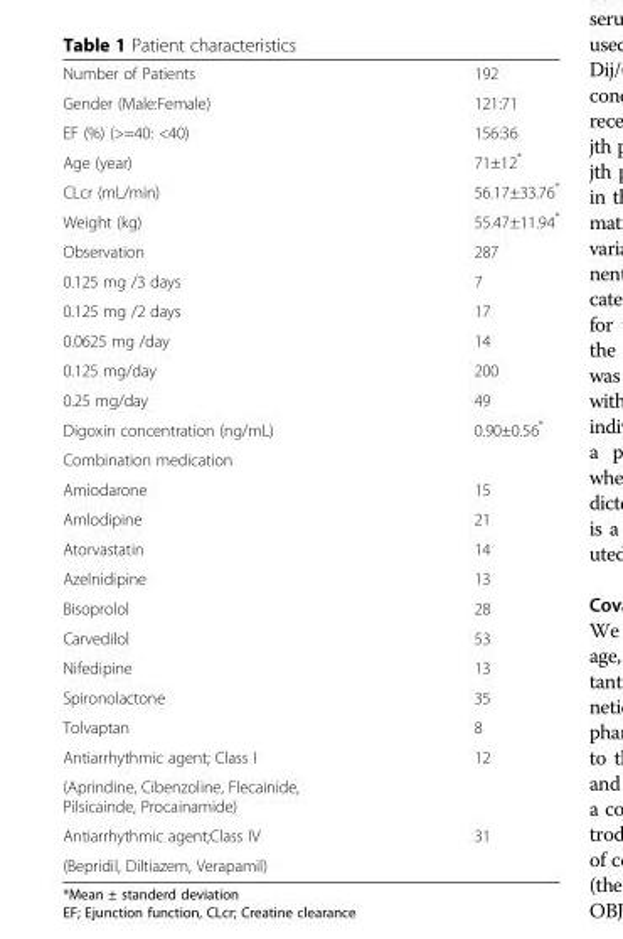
<table><tbody><tr><td>Number of Patients</td><td>192</td></tr><tr><td>Gender (Male:Female)</td><td>121:71</td></tr><tr><td>EF (%) (&gt;=40: &lt;40)</td><td>156:36</td></tr><tr><td>Age (year)</td><td>71±12*</td></tr><tr><td>CLcr (mL/min)</td><td>56.17±33.76*</td></tr><tr><td>Weight (kg)</td><td>55.47±11.94*</td></tr><tr><td>Observation</td><td>287</td></tr><tr><td>0.125 mg /3 days</td><td>7</td></tr><tr><td>0.125 mg /2 days</td><td>17</td></tr><tr><td>0.0625 mg /day</td><td>14</td></tr><tr><td>0.125 mg/day</td><td>200</td></tr><tr><td>0.25 mg/day</td><td>49</td></tr><tr><td>Digoxin concentration (ng/mL)</td><td>0.90±0.56*</td></tr><tr><td colspan="2">Combination medication</td></tr><tr><td>Amiodarone</td><td>15</td></tr><tr><td>Amlodipine</td><td>21</td></tr><tr><td>Atorvastatin</td><td>14</td></tr><tr><td>Azelnidipine</td><td>13</td></tr><tr><td>Bisoprolol</td><td>28</td></tr><tr><td>Carvedilol</td><td>53</td></tr><tr><td>Nifedipine</td><td>13</td></tr><tr><td>Spironolactone</td><td>35</td></tr><tr><td>Tolvaptan</td><td>8</td></tr><tr><td>Antiarrhythmic agent; Class I</td><td>12</td></tr><tr><td colspan="2">(Aprindine, Cibenzoline, Flecainide, Pilsicainde, Procainamide)</td></tr><tr><td>Antiarrhythmic agent;Class IV</td><td>31</td></tr><tr><td>(Bepridil, Diltiazem, Verapamil)</td><td></td></tr></tbody></table>